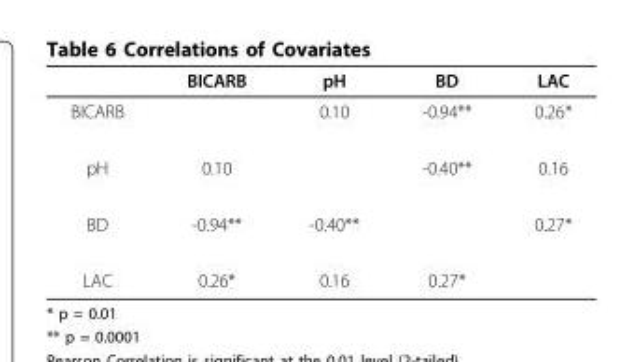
<table><thead><tr><td></td><td>BICARB</td><td>pH</td><td>BD</td><td>LAC</td></tr></thead><tbody><tr><td>BICARB</td><td></td><td>0.10</td><td>-0.94**</td><td>0.26*</td></tr><tr><td>pH</td><td>0.10</td><td></td><td>-0.40**</td><td>0.16</td></tr><tr><td>BD</td><td>-0.94**</td><td>-0.40**</td><td></td><td>0.27*</td></tr><tr><td>LAC</td><td>0.26*</td><td>0.16</td><td>0.27*</td><td></td></tr></tbody></table>